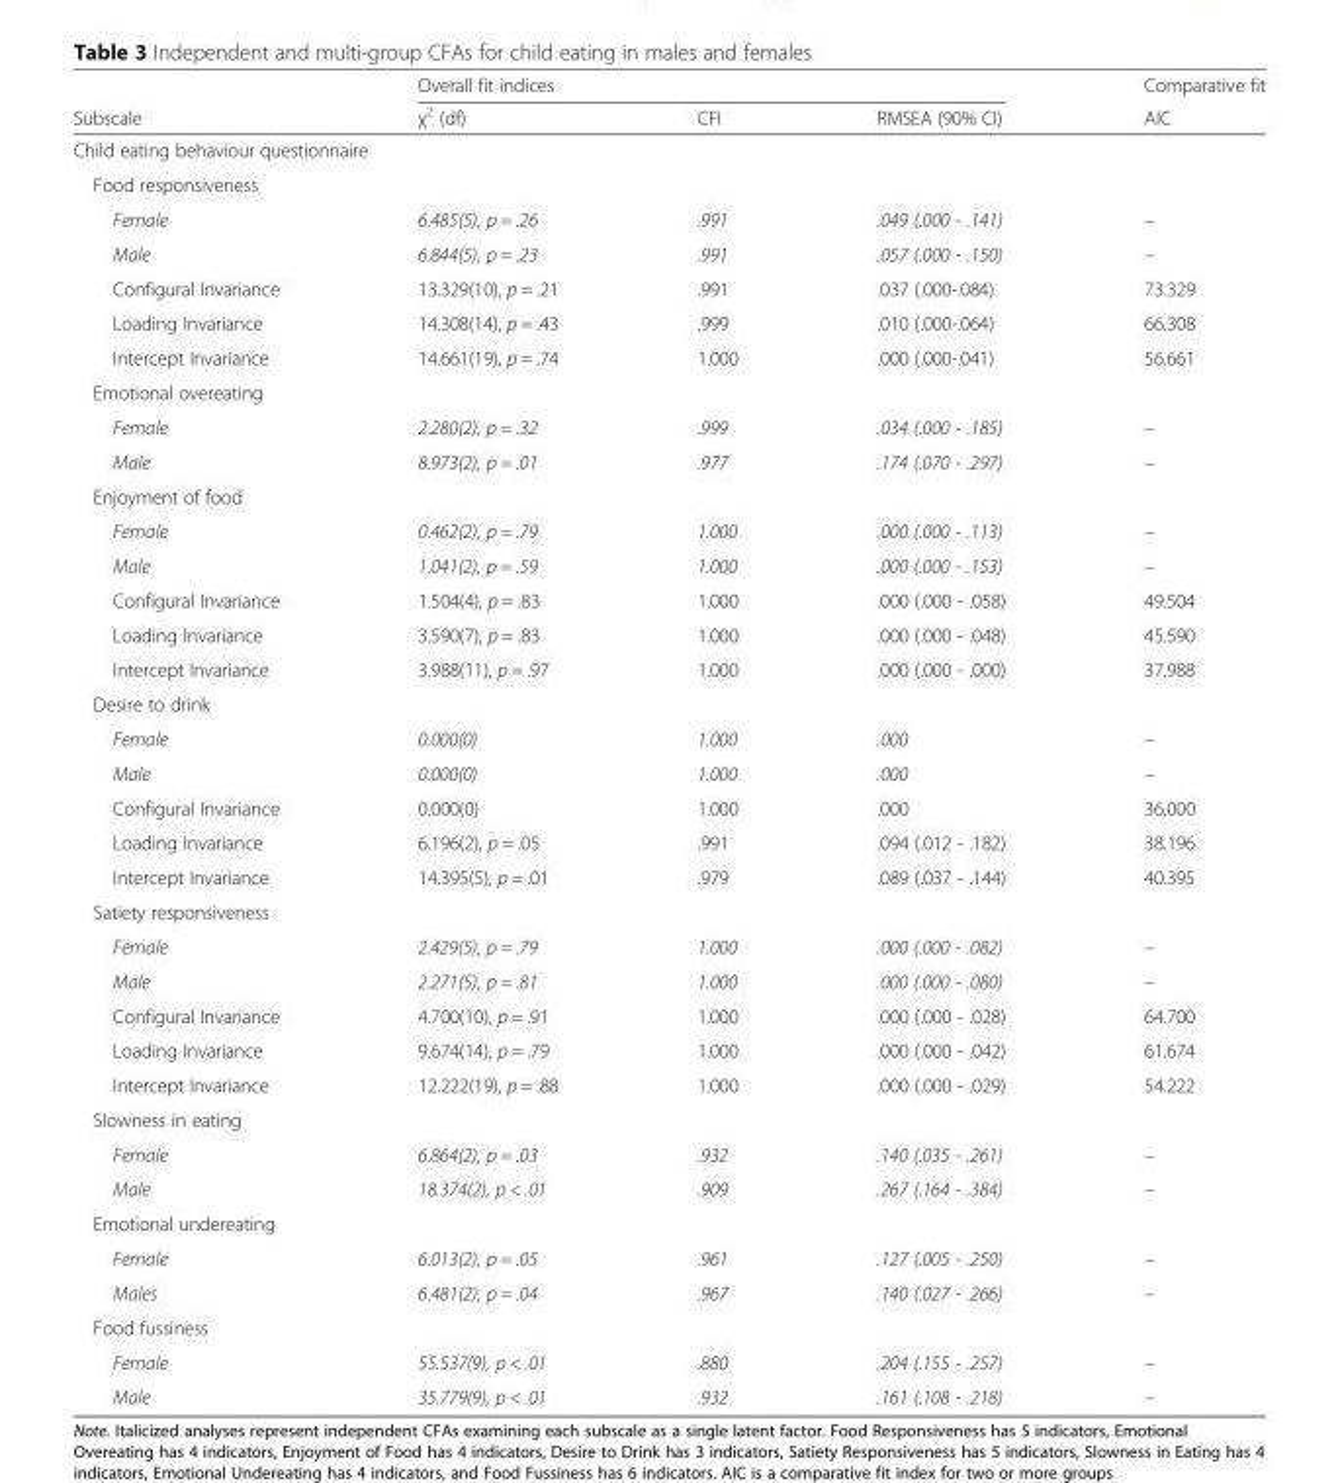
<table><thead><tr><td rowspan="2">Subscale</td><td colspan="3">Overall fit indices</td><td rowspan="2">Comparative fit AIC</td></tr><tr><td>χ<sup>2</sup> (df)</td><td>CFI</td><td>RMSEA (90% CI)</td></tr></thead><tbody><tr><td colspan="5">Child eating behaviour questionnaire</td></tr><tr><td colspan="5">Food responsiveness</td></tr><tr><td>Female</td><td>6.485(5), p = .26</td><td>.991</td><td>.049 (.000 - .141)</td><td>–</td></tr><tr><td>Male</td><td>6.844(5), p = .23</td><td>.991</td><td>.057 (.000 - .150)</td><td>–</td></tr><tr><td>Configural Invariance</td><td>13.329(10), p = .21</td><td>.991</td><td>.037 (.000-.084)</td><td>73.329</td></tr><tr><td>Loading Invariance</td><td>14.308(14), p = .43</td><td>.999</td><td>.010 (.000-.064)</td><td>66.308</td></tr><tr><td>Intercept Invariance</td><td>14.661(19), p = .74</td><td>1.000</td><td>.000 (.000-.041)</td><td>56.661</td></tr><tr><td colspan="5">Emotional overeating</td></tr><tr><td>Female</td><td>2.280(2), p = .32</td><td>.999</td><td>.034 (.000 - .185)</td><td>–</td></tr><tr><td>Male</td><td>8.973(2), p = .01</td><td>.977</td><td>.174 (.070 - .297)</td><td>–</td></tr><tr><td colspan="5">Enjoyment of food</td></tr><tr><td>Female</td><td>0.462(2), p = .79</td><td>1.000</td><td>.000 (.000 - .113)</td><td>–</td></tr><tr><td>Male</td><td>1.041(2), p = .59</td><td>1.000</td><td>.000 (.000 - .153)</td><td>–</td></tr><tr><td>Configural Invariance</td><td>1.504(4), p = .83</td><td>1.000</td><td>.000 (.000 - .058)</td><td>49.504</td></tr><tr><td>Loading Invariance</td><td>3.590(7), p = .83</td><td>1.000</td><td>.000 (.000 - .048)</td><td>45.590</td></tr><tr><td>Intercept Invariance</td><td>3.988(11), p = .97</td><td>1.000</td><td>.000 (.000 - .000)</td><td>37.988</td></tr><tr><td colspan="5">Desire to drink</td></tr><tr><td>Female</td><td>0.000(0)</td><td>1.000</td><td>.000</td><td>–</td></tr><tr><td>Male</td><td>0.000(0)</td><td>1.000</td><td>.000</td><td>–</td></tr><tr><td>Configural Invariance</td><td>0.000(0)</td><td>1.000</td><td>.000</td><td>36.000</td></tr><tr><td>Loading Invariance</td><td>6.196(2), p = .05</td><td>.991</td><td>.094 (.012 - .182)</td><td>38.196</td></tr><tr><td>Intercept Invariance</td><td>14.395(5), p = .01</td><td>.979</td><td>.089 (.037 - .144)</td><td>40.395</td></tr><tr><td colspan="5">Satiety responsiveness</td></tr><tr><td>Female</td><td>2.429(5), p = .79</td><td>1.000</td><td>.000 (.000 - .082)</td><td>–</td></tr><tr><td>Male</td><td>2.271(5), p = .81</td><td>1.000</td><td>.000 (.000 - .080)</td><td>–</td></tr><tr><td>Configural Invariance</td><td>4.700(10), p = .91</td><td>1.000</td><td>.000 (.000 - .028)</td><td>64.700</td></tr><tr><td>Loading Invariance</td><td>9.674(14), p = .79</td><td>1.000</td><td>.000 (.000 - .042)</td><td>61.674</td></tr><tr><td>Intercept Invariance</td><td>12.222(19), p = .88</td><td>1.000</td><td>.000 (.000 - .029)</td><td>54.222</td></tr><tr><td colspan="5">Slowness in eating</td></tr><tr><td>Female</td><td>6.864(2), p = .03</td><td>.932</td><td>.140 (.035 - .261)</td><td>–</td></tr><tr><td>Male</td><td>18.374(2), p &lt; .01</td><td>.909</td><td>.267 (.164 - .384)</td><td>–</td></tr><tr><td colspan="5">Emotional undereating</td></tr><tr><td>Female</td><td>6.013(2), p = .05</td><td>.961</td><td>.127 (.005 - .250)</td><td>–</td></tr><tr><td>Males</td><td>6.481(2), p = .04</td><td>.967</td><td>.140 (.027 - .266)</td><td>–</td></tr><tr><td colspan="5">Food fussiness</td></tr><tr><td>Female</td><td>55.537(9), p &lt; .01</td><td>.880</td><td>.204 (.155 - .257)</td><td>–</td></tr><tr><td>Male</td><td>35.779(9), p &lt; .01</td><td>.932</td><td>.161 (.108 - .218)</td><td>–</td></tr></tbody></table>